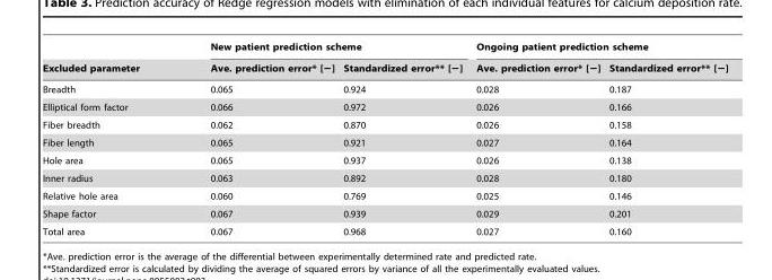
<table><thead><tr><td rowspan="2">Excluded parameter</td><td colspan="2">New patient prediction scheme</td><td colspan="2">Ongoing patient prediction scheme</td></tr><tr><td>Ave. prediction error* [−]</td><td>Standardized error** [−]</td><td>Ave. prediction error* [−]</td><td>Standardized error** [−]</td></tr></thead><tbody><tr><td>Breadth</td><td>0.065</td><td>0.924</td><td>0.028</td><td>0.187</td></tr><tr><td>Elliptical form factor</td><td>0.066</td><td>0.972</td><td>0.026</td><td>0.166</td></tr><tr><td>Fiber breadth</td><td>0.062</td><td>0.870</td><td>0.026</td><td>0.158</td></tr><tr><td>Fiber length</td><td>0.065</td><td>0.921</td><td>0.027</td><td>0.164</td></tr><tr><td>Hole area</td><td>0.065</td><td>0.937</td><td>0.026</td><td>0.138</td></tr><tr><td>Inner radius</td><td>0.063</td><td>0.892</td><td>0.028</td><td>0.180</td></tr><tr><td>Relative hole area</td><td>0.060</td><td>0.769</td><td>0.025</td><td>0.146</td></tr><tr><td>Shape factor</td><td>0.067</td><td>0.939</td><td>0.029</td><td>0.201</td></tr><tr><td>Total area</td><td>0.067</td><td>0.968</td><td>0.027</td><td>0.160</td></tr></tbody></table>